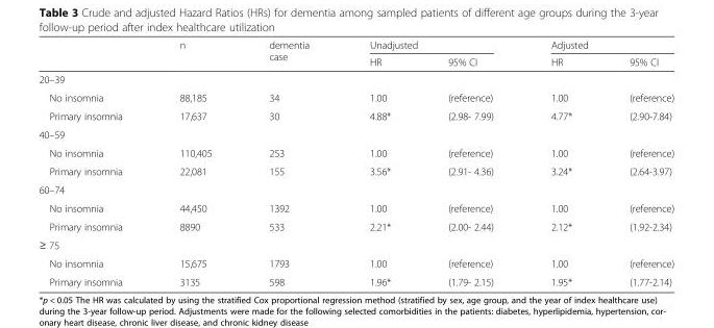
<table><thead><tr><td rowspan="2"></td><td rowspan="2">n</td><td rowspan="2">dementia case</td><td colspan="2">Unadjusted</td><td colspan="2">Adjusted</td></tr><tr><td>HR</td><td>95% CI</td><td>HR</td><td>95% CI</td></tr></thead><tbody><tr><td colspan="7">20–39</td></tr><tr><td>No insomnia</td><td>88,185</td><td>34</td><td>1.00</td><td>(reference)</td><td>1.00</td><td>(reference)</td></tr><tr><td>Primary insomnia</td><td>17,637</td><td>30</td><td>4.88*</td><td>(2.98- 7.99)</td><td>4.77*</td><td>(2.90-7.84)</td></tr><tr><td colspan="7">40–59</td></tr><tr><td>No insomnia</td><td>110,405</td><td>253</td><td>1.00</td><td>(reference)</td><td>1.00</td><td>(reference)</td></tr><tr><td>Primary insomnia</td><td>22,081</td><td>155</td><td>3.56*</td><td>(2.91- 4.36)</td><td>3.24*</td><td>(2.64-3.97)</td></tr><tr><td colspan="7">60–74</td></tr><tr><td>No insomnia</td><td>44,450</td><td>1392</td><td>1.00</td><td>(reference)</td><td>1.00</td><td>(reference)</td></tr><tr><td>Primary insomnia</td><td>8890</td><td>533</td><td>2.21*</td><td>(2.00- 2.44)</td><td>2.12*</td><td>(1.92-2.34)</td></tr><tr><td colspan="7">≥ 75</td></tr><tr><td>No insomnia</td><td>15,675</td><td>1793</td><td>1.00</td><td>(reference)</td><td>1.00</td><td>(reference)</td></tr><tr><td>Primary insomnia</td><td>3135</td><td>598</td><td>1.96*</td><td>(1.79- 2.15)</td><td>1.95*</td><td>(1.77-2.14)</td></tr></tbody></table>